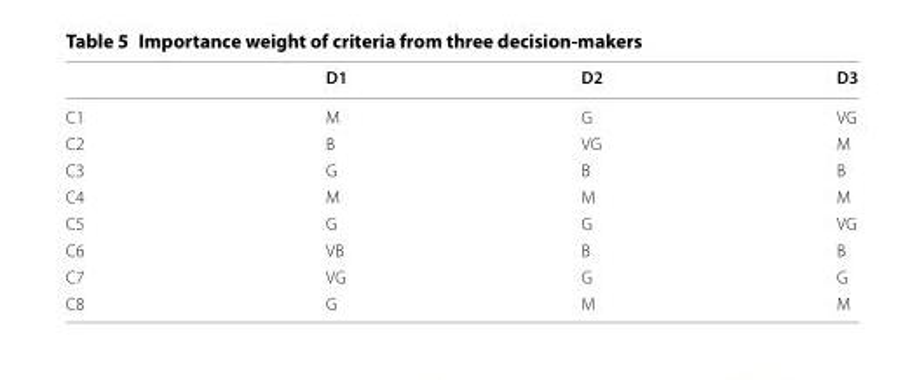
<table><thead><tr><td></td><td>D1</td><td>D2</td><td>D3</td></tr></thead><tbody><tr><td>C1</td><td>M</td><td>G</td><td>VG</td></tr><tr><td>C2</td><td>B</td><td>VG</td><td>M</td></tr><tr><td>C3</td><td>G</td><td>B</td><td>B</td></tr><tr><td>C4</td><td>M</td><td>M</td><td>M</td></tr><tr><td>C5</td><td>G</td><td>G</td><td>VG</td></tr><tr><td>C6</td><td>VB</td><td>B</td><td>B</td></tr><tr><td>C7</td><td>VG</td><td>G</td><td>G</td></tr><tr><td>C8</td><td>G</td><td>M</td><td>M</td></tr></tbody></table>